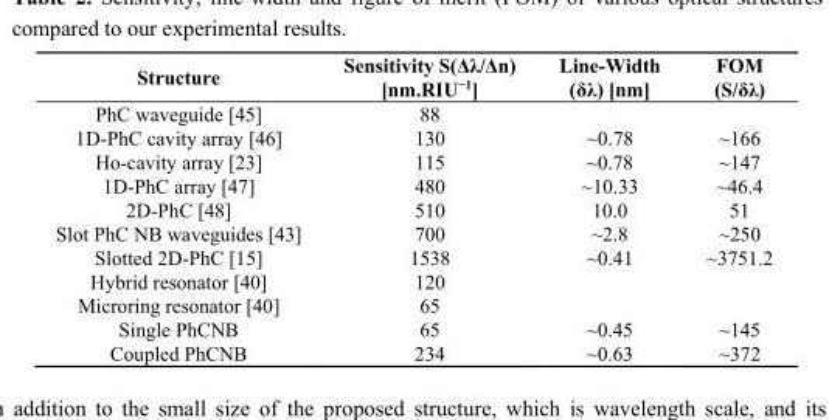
<table><thead><tr><td>Structure</td><td>Sensitivity S(Δλ/Δn) [nm.RIU<sup>−1</sup>]</td><td>Line-Width (δλ) [nm]</td><td>FOM (S/δλ)</td></tr></thead><tbody><tr><td>PhC waveguide [45]</td><td>88</td><td></td><td></td></tr><tr><td>1D-PhC cavity array [46]</td><td>130</td><td>~0.78</td><td>~166</td></tr><tr><td>Ho-cavity array [23]</td><td>115</td><td>~0.78</td><td>~147</td></tr><tr><td>1D-PhC array [47]</td><td>480</td><td>~10.33</td><td>~46.4</td></tr><tr><td>2D-PhC [48]</td><td>510</td><td>10.0</td><td>51</td></tr><tr><td>Slot PhC NB waveguides [43]</td><td>700</td><td>~2.8</td><td>~250</td></tr><tr><td>Slotted 2D-PhC [15]</td><td>1538</td><td>~0.41</td><td>~3751.2</td></tr><tr><td>Hybrid resonator [40]</td><td>120</td><td></td><td></td></tr><tr><td>Microring resonator [40]</td><td>65</td><td></td><td></td></tr><tr><td>Single PhCNB</td><td>65</td><td>~0.45</td><td>~145</td></tr><tr><td>Coupled PhCNB</td><td>234</td><td>~0.63</td><td>~372</td></tr></tbody></table>